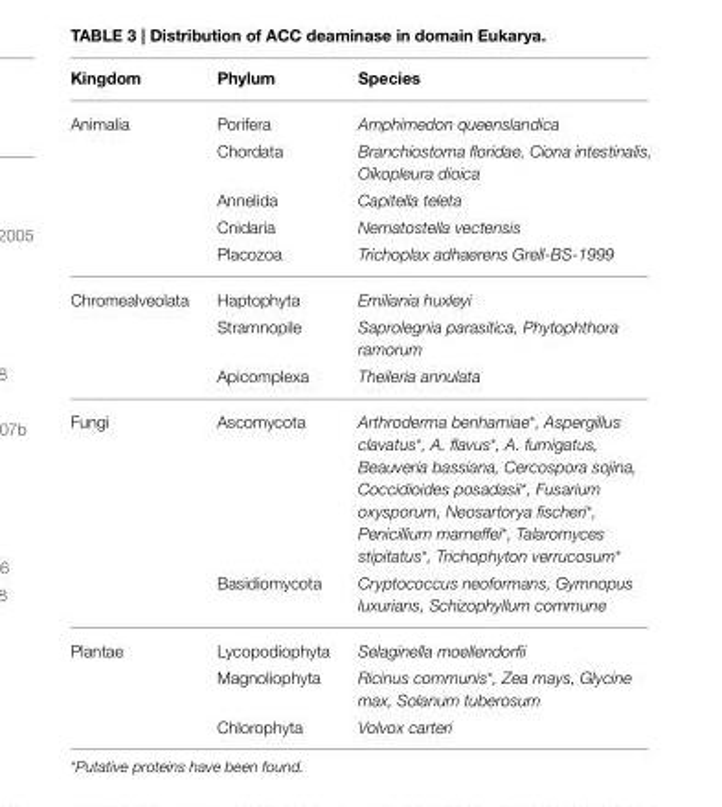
<table><thead><tr><td>Kingdom</td><td>Phylum</td><td>Species</td></tr></thead><tbody><tr><td rowspan="5">Animalia</td><td>Porifera</td><td>Amphimedon queenslandica</td></tr><tr><td>Chordata</td><td>Branchiostoma floridae, Ciona intestinalis, Oikopleura dioica</td></tr><tr><td>Annelida</td><td>Capitella teleta</td></tr><tr><td>Cnidaria</td><td>Nematostella vectensis</td></tr><tr><td>Placozoa</td><td>Trichoplax adhaerens Grell-BS-1999</td></tr><tr><td rowspan="3">Chromealveolata</td><td>Haptophyta</td><td>Emiliania huxleyi</td></tr><tr><td>Stramnopile</td><td>Saprolegnia parasitica, Phytophthora ramorum</td></tr><tr><td>Apicomplexa</td><td>Theileria annulata</td></tr><tr><td rowspan="2">Fungi</td><td>Ascomycota</td><td>Arthroderma benhamiae*, Aspergillus clavatus*, A. flavus*, A. fumigatus, Beauveria bassiana, Cercospora sojina, Coccidioides posadasii*, Fusarium oxysporum, Neosartorya fischeri*, Penicillium marneffei*, Talaromyces stipitatus*, Trichophyton verrucosum*</td></tr><tr><td>Basidiomycota</td><td>Cryptococcus neoformans, Gymnopus luxurians, Schizophyllum commune</td></tr><tr><td rowspan="3">Plantae</td><td>Lycopodiophyta</td><td>Selaginella moellendorfii</td></tr><tr><td>Magnoliophyta</td><td>Ricinus communis*, Zea mays, Glycine max, Solanum tuberosum</td></tr><tr><td>Chlorophyta</td><td>Volvox carteri</td></tr></tbody></table>